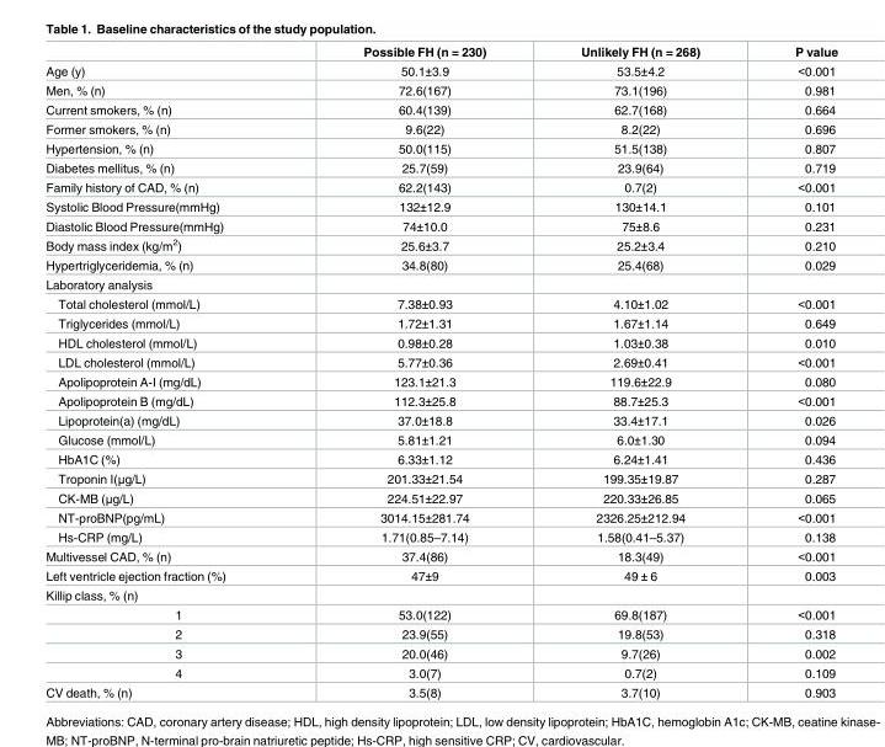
<table><thead><tr><td></td><td>Possible FH (n = 230)</td><td>Unlikely FH (n = 268)</td><td>P value</td></tr></thead><tbody><tr><td>Age (y)</td><td>50.1±3.9</td><td>53.5±4.2</td><td>&lt;0.001</td></tr><tr><td>Men, % (n)</td><td>72.6(167)</td><td>73.1(196)</td><td>0.981</td></tr><tr><td>Current smokers, % (n)</td><td>60.4(139)</td><td>62.7(168)</td><td>0.664</td></tr><tr><td>Former smokers, % (n)</td><td>9.6(22)</td><td>8.2(22)</td><td>0.696</td></tr><tr><td>Hypertension, % (n)</td><td>50.0(115)</td><td>51.5(138)</td><td>0.807</td></tr><tr><td>Diabetes mellitus, % (n)</td><td>25.7(59)</td><td>23.9(64)</td><td>0.719</td></tr><tr><td>Family history of CAD, % (n)</td><td>62.2(143)</td><td>0.7(2)</td><td>&lt;0.001</td></tr><tr><td>Systolic Blood Pressure(mmHg)</td><td>132±12.9</td><td>130±14.1</td><td>0.101</td></tr><tr><td>Diastolic Blood Pressure(mmHg)</td><td>74±10.0</td><td>75±8.6</td><td>0.231</td></tr><tr><td>Body mass index (kg/m<sup>2</sup>)</td><td>25.6±3.7</td><td>25.2±3.4</td><td>0.210</td></tr><tr><td>Hypertriglyceridemia, % (n)</td><td>34.8(80)</td><td>25.4(68)</td><td>0.029</td></tr><tr><td colspan="4">Laboratory analysis</td></tr><tr><td>Total cholesterol (mmol/L)</td><td>7.38±0.93</td><td>4.10±1.02</td><td>&lt;0.001</td></tr><tr><td>Triglycerides (mmol/L)</td><td>1.72±1.31</td><td>1.67±1.14</td><td>0.649</td></tr><tr><td>HDL cholesterol (mmol/L)</td><td>0.98±0.28</td><td>1.03±0.38</td><td>0.010</td></tr><tr><td>LDL cholesterol (mmol/L)</td><td>5.77±0.36</td><td>2.69±0.41</td><td>&lt;0.001</td></tr><tr><td>Apolipoprotein A-I (mg/dL)</td><td>123.1±21.3</td><td>119.6±22.9</td><td>0.080</td></tr><tr><td>Apolipoprotein B (mg/dL)</td><td>112.3±25.8</td><td>88.7±25.3</td><td>&lt;0.001</td></tr><tr><td>Lipoprotein(a) (mg/dL)</td><td>37.0±18.8</td><td>33.4±17.1</td><td>0.026</td></tr><tr><td>Glucose (mmol/L)</td><td>5.81±1.21</td><td>6.0±1.30</td><td>0.094</td></tr><tr><td>HbA1C (%)</td><td>6.33±1.12</td><td>6.24±1.41</td><td>0.436</td></tr><tr><td>Troponin I(μg/L)</td><td>201.33±21.54</td><td>199.35±19.87</td><td>0.287</td></tr><tr><td>CK-MB (μg/L)</td><td>224.51±22.97</td><td>220.33±26.85</td><td>0.065</td></tr><tr><td>NT-proBNP(pg/mL)</td><td>3014.15±281.74</td><td>2326.25±212.94</td><td>&lt;0.001</td></tr><tr><td>Hs-CRP (mg/L)</td><td>1.71(0.85–7.14)</td><td>1.58(0.41–5.37)</td><td>0.138</td></tr><tr><td>Multivessel CAD, % (n)</td><td>37.4(86)</td><td>18.3(49)</td><td>&lt;0.001</td></tr><tr><td>Left ventricle ejection fraction (%)</td><td>47±9</td><td>49 ± 6</td><td>0.003</td></tr><tr><td colspan="4">Killip class, % (n)</td></tr><tr><td>1</td><td>53.0(122)</td><td>69.8(187)</td><td>&lt;0.001</td></tr><tr><td>2</td><td>23.9(55)</td><td>19.8(53)</td><td>0.318</td></tr><tr><td>3</td><td>20.0(46)</td><td>9.7(26)</td><td>0.002</td></tr><tr><td>4</td><td>3.0(7)</td><td>0.7(2)</td><td>0.109</td></tr><tr><td>CV death, % (n)</td><td>3.5(8)</td><td>3.7(10)</td><td>0.903</td></tr></tbody></table>